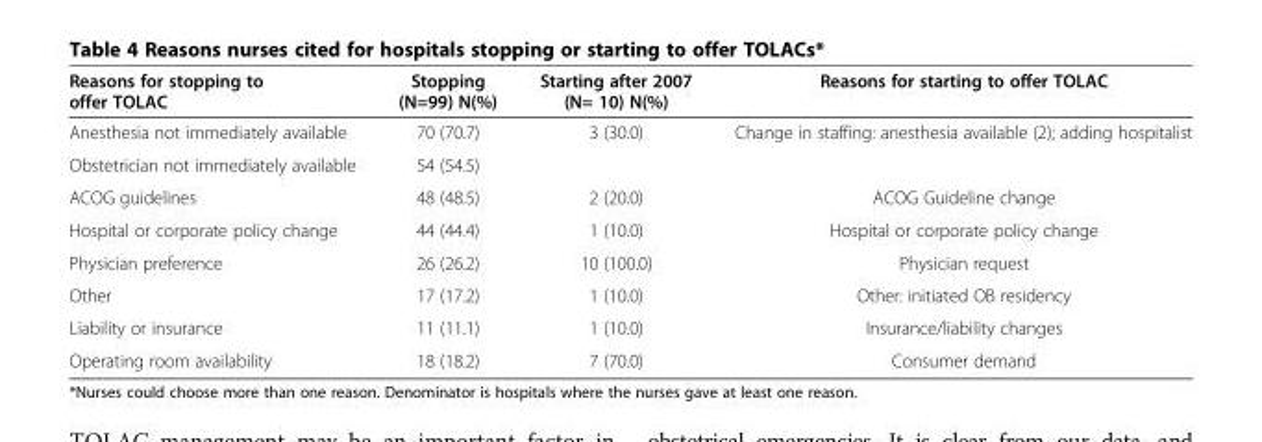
<table><thead><tr><td>Reasons for stopping to offer TOLAC</td><td>Stopping (N=99) N(%)</td><td>Starting after 2007 (N= 10) N(%)</td><td>Reasons for starting to offer TOLAC</td></tr></thead><tbody><tr><td>Anesthesia not immediately available</td><td>70 (70.7)</td><td>3 (30.0)</td><td>Change in staffing: anesthesia available (2); adding hospitalist</td></tr><tr><td>Obstetrician not immediately available</td><td>54 (54.5)</td><td></td><td></td></tr><tr><td>ACOG guidelines</td><td>48 (48.5)</td><td>2 (20.0)</td><td>ACOG Guideline change</td></tr><tr><td>Hospital or corporate policy change</td><td>44 (44.4)</td><td>1 (10.0)</td><td>Hospital or corporate policy change</td></tr><tr><td>Physician preference</td><td>26 (26.2)</td><td>10 (100.0)</td><td>Physician request</td></tr><tr><td>Other</td><td>17 (17.2)</td><td>1 (10.0)</td><td>Other: initiated OB residency</td></tr><tr><td>Liability or insurance</td><td>11 (11.1)</td><td>1 (10.0)</td><td>Insurance/liability changes</td></tr><tr><td>Operating room availability</td><td>18 (18.2)</td><td>7 (70.0)</td><td>Consumer demand</td></tr></tbody></table>